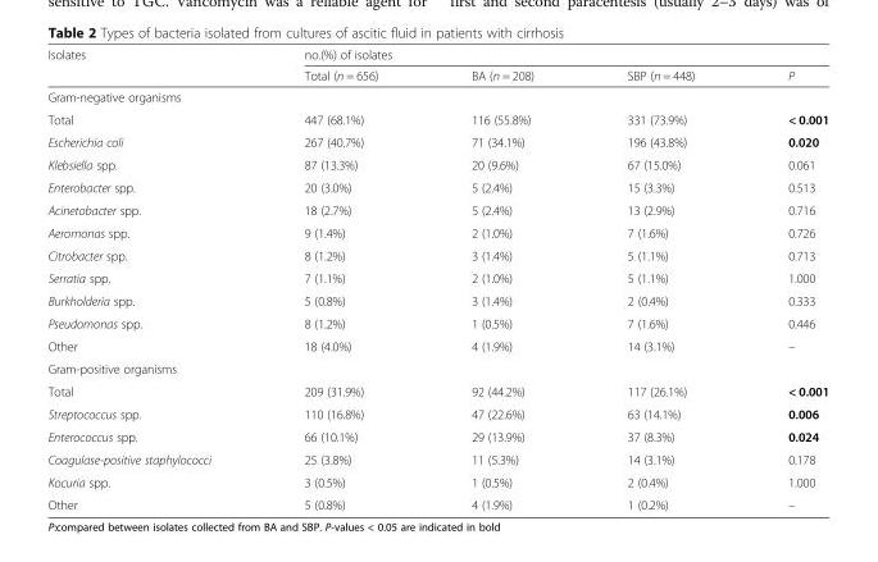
<table><thead><tr><td rowspan="2">Isolates</td><td colspan="4">no.(%) of isolates</td></tr><tr><td>Total (n = 656)</td><td>BA (n = 208)</td><td>SBP (n = 448)</td><td>P</td></tr></thead><tbody><tr><td colspan="5">Gram-negative organisms</td></tr><tr><td>Total</td><td>447 (68.1%)</td><td>116 (55.8%)</td><td>331 (73.9%)</td><td>&lt; 0.001</td></tr><tr><td>Escherichia coli</td><td>267 (40.7%)</td><td>71 (34.1%)</td><td>196 (43.8%)</td><td>0.020</td></tr><tr><td>Klebsiella spp.</td><td>87 (13.3%)</td><td>20 (9.6%)</td><td>67 (15.0%)</td><td>0.061</td></tr><tr><td>Enterobacter spp.</td><td>20 (3.0%)</td><td>5 (2.4%)</td><td>15 (3.3%)</td><td>0.513</td></tr><tr><td>Acinetobacter spp.</td><td>18 (2.7%)</td><td>5 (2.4%)</td><td>13 (2.9%)</td><td>0.716</td></tr><tr><td>Aeromonas spp.</td><td>9 (1.4%)</td><td>2 (1.0%)</td><td>7 (1.6%)</td><td>0.726</td></tr><tr><td>Citrobacter spp.</td><td>8 (1.2%)</td><td>3 (1.4%)</td><td>5 (1.1%)</td><td>0.713</td></tr><tr><td>Serratia spp.</td><td>7 (1.1%)</td><td>2 (1.0%)</td><td>5 (1.1%)</td><td>1.000</td></tr><tr><td>Burkholderia spp.</td><td>5 (0.8%)</td><td>3 (1.4%)</td><td>2 (0.4%)</td><td>0.333</td></tr><tr><td>Pseudomonas spp.</td><td>8 (1.2%)</td><td>1 (0.5%)</td><td>7 (1.6%)</td><td>0.446</td></tr><tr><td>Other</td><td>18 (4.0%)</td><td>4 (1.9%)</td><td>14 (3.1%)</td><td>–</td></tr><tr><td colspan="5">Gram-positive organisms</td></tr><tr><td>Total</td><td>209 (31.9%)</td><td>92 (44.2%)</td><td>117 (26.1%)</td><td>&lt; 0.001</td></tr><tr><td>Streptococcus spp.</td><td>110 (16.8%)</td><td>47 (22.6%)</td><td>63 (14.1%)</td><td>0.006</td></tr><tr><td>Enterococcus spp.</td><td>66 (10.1%)</td><td>29 (13.9%)</td><td>37 (8.3%)</td><td>0.024</td></tr><tr><td>Coagulase-positive staphylococci</td><td>25 (3.8%)</td><td>11 (5.3%)</td><td>14 (3.1%)</td><td>0.178</td></tr><tr><td>Kocuria spp.</td><td>3 (0.5%)</td><td>1 (0.5%)</td><td>2 (0.4%)</td><td>1.000</td></tr><tr><td>Other</td><td>5 (0.8%)</td><td>4 (1.9%)</td><td>1 (0.2%)</td><td>–</td></tr></tbody></table>